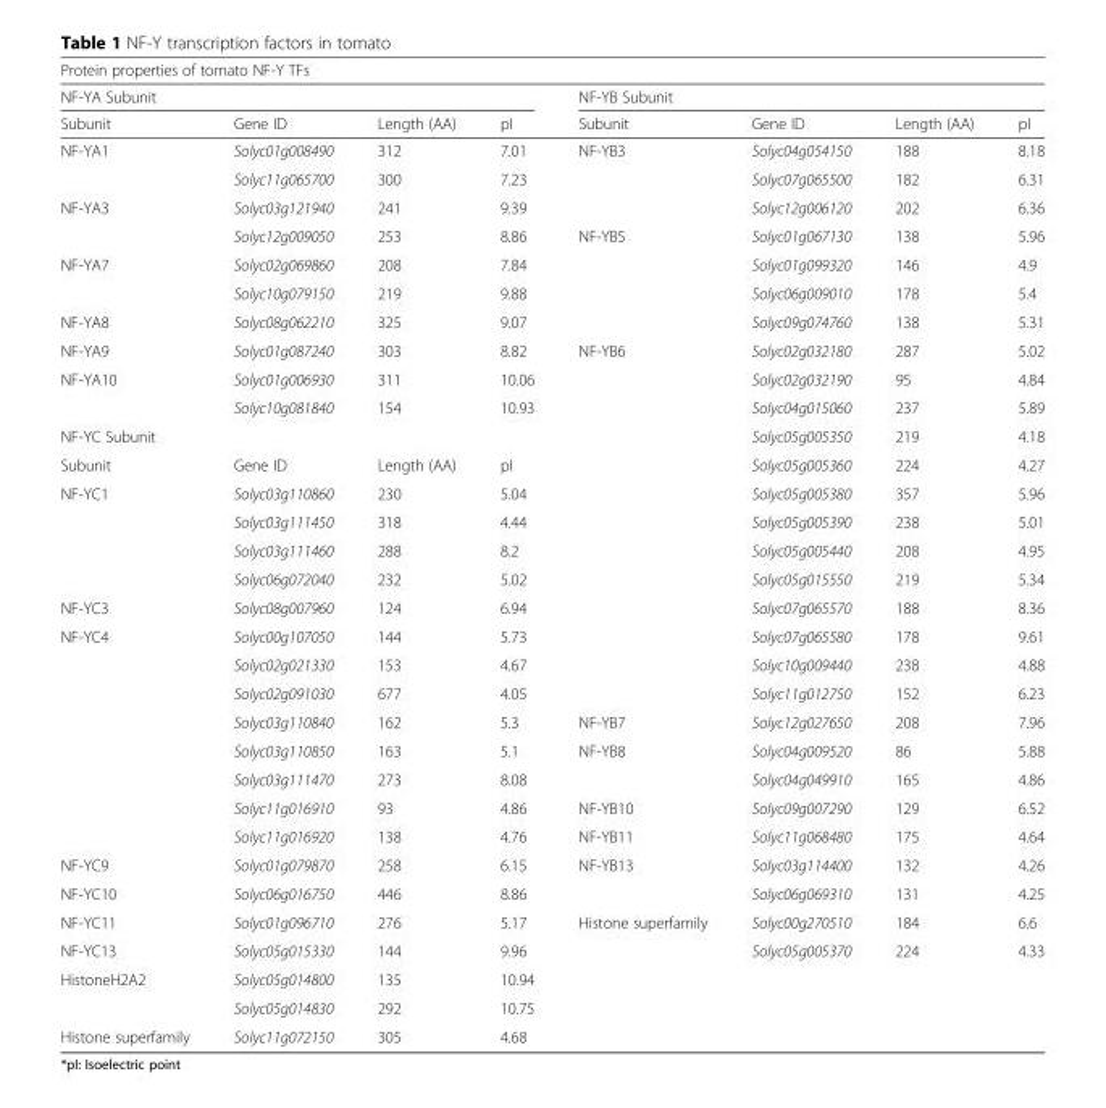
<table><thead><tr><td colspan="8">Protein properties of tomato NF-Y TFs</td></tr><tr><td colspan="4">NF-YA Subunit</td><td colspan="4">NF-YB Subunit</td></tr><tr><td>Subunit</td><td>Gene ID</td><td>Length (AA)</td><td>pI</td><td>Subunit</td><td>Gene ID</td><td>Length (AA)</td><td>pI</td></tr></thead><tbody><tr><td rowspan="2">NF-YA1</td><td>Solyc01g008490</td><td>312</td><td>7.01</td><td rowspan="3">NF-YB3</td><td>Solyc04g054150</td><td>188</td><td>8.18</td></tr><tr><td>Solyc11g065700</td><td>300</td><td>7.23</td><td>Solyc07g065500</td><td>182</td><td>6.31</td></tr><tr><td rowspan="2">NF-YA3</td><td>Solyc03g121940</td><td>241</td><td>9.39</td><td>Solyc12g006120</td><td>202</td><td>6.36</td></tr><tr><td>Solyc12g009050</td><td>253</td><td>8.86</td><td rowspan="4">NF-YB5</td><td>Solyc01g067130</td><td>138</td><td>5.96</td></tr><tr><td rowspan="2">NF-YA7</td><td>Solyc02g069860</td><td>208</td><td>7.84</td><td>Solyc01g099320</td><td>146</td><td>4.9</td></tr><tr><td>Solyc10g079150</td><td>219</td><td>9.88</td><td>Solyc06g009010</td><td>178</td><td>5.4</td></tr><tr><td>NF-YA8</td><td>Solyc08g062210</td><td>325</td><td>9.07</td><td>Solyc09g074760</td><td>138</td><td>5.31</td></tr><tr><td>NF-YA9</td><td>Solyc01g087240</td><td>303</td><td>8.82</td><td rowspan="13">NF-YB6</td><td>Solyc02g032180</td><td>287</td><td>5.02</td></tr><tr><td rowspan="2">NF-YA10</td><td>Solyc01g006930</td><td>311</td><td>10.06</td><td>Solyc02g032190</td><td>95</td><td>4.84</td></tr><tr><td>Solyc10g081840</td><td>154</td><td>10.93</td><td>Solyc04g015060</td><td>237</td><td>5.89</td></tr><tr><td colspan="4">NF-YC Subunit</td><td>Solyc05g005350</td><td>219</td><td>4.18</td></tr><tr><td>Subunit</td><td>Gene ID</td><td>Length (AA)</td><td>pI</td><td>Solyc05g005360</td><td>224</td><td>4.27</td></tr><tr><td rowspan="4">NF-YC1</td><td>Solyc03g110860</td><td>230</td><td>5.04</td><td>Solyc05g005380</td><td>357</td><td>5.96</td></tr><tr><td>Solyc03g111450</td><td>318</td><td>4.44</td><td>Solyc05g005390</td><td>238</td><td>5.01</td></tr><tr><td>Solyc03g111460</td><td>288</td><td>8.2</td><td>Solyc05g005440</td><td>208</td><td>4.95</td></tr><tr><td>Solyc06g072040</td><td>232</td><td>5.02</td><td>Solyc05g015550</td><td>219</td><td>5.34</td></tr><tr><td>NF-YC3</td><td>Solyc08g007960</td><td>124</td><td>6.94</td><td>Solyc07g065570</td><td>188</td><td>8.36</td></tr><tr><td rowspan="8">NF-YC4</td><td>Solyc00g107050</td><td>144</td><td>5.73</td><td>Solyc07g065580</td><td>178</td><td>9.61</td></tr><tr><td>Solyc02g021330</td><td>153</td><td>4.67</td><td>Solyc10g009440</td><td>238</td><td>4.88</td></tr><tr><td>Solyc02g091030</td><td>677</td><td>4.05</td><td>Solyc11g012750</td><td>152</td><td>6.23</td></tr><tr><td>Solyc03g110840</td><td>162</td><td>5.3</td><td>NF-YB7</td><td>Solyc12g027650</td><td>208</td><td>7.96</td></tr><tr><td>Solyc03g110850</td><td>163</td><td>5.1</td><td rowspan="2">NF-YB8</td><td>Solyc04g009520</td><td>86</td><td>5.88</td></tr><tr><td>Solyc03g111470</td><td>273</td><td>8.08</td><td>Solyc04g049910</td><td>165</td><td>4.86</td></tr><tr><td>Solyc11g016910</td><td>93</td><td>4.86</td><td>NF-YB10</td><td>Solyc09g007290</td><td>129</td><td>6.52</td></tr><tr><td>Solyc11g016920</td><td>138</td><td>4.76</td><td>NF-YB11</td><td>Solyc11g068480</td><td>175</td><td>4.64</td></tr><tr><td>NF-YC9</td><td>Solyc01g079870</td><td>258</td><td>6.15</td><td rowspan="2">NF-YB13</td><td>Solyc03g114400</td><td>132</td><td>4.26</td></tr><tr><td>NF-YC10</td><td>Solyc06g016750</td><td>446</td><td>8.86</td><td>Solyc06g069310</td><td>131</td><td>4.25</td></tr><tr><td>NF-YC11</td><td>Solyc01g096710</td><td>276</td><td>5.17</td><td rowspan="2">Histone superfamily</td><td>Solyc00g270510</td><td>184</td><td>6.6</td></tr><tr><td>NF-YC13</td><td>Solyc05g015330</td><td>144</td><td>9.96</td><td>Solyc05g005370</td><td>224</td><td>4.33</td></tr><tr><td rowspan="2">HistoneH2A2</td><td>Solyc05g014800</td><td>135</td><td>10.94</td><td></td><td></td><td></td><td></td></tr><tr><td>Solyc05g014830</td><td>292</td><td>10.75</td><td></td><td></td><td></td><td></td></tr><tr><td>Histone superfamily</td><td>Solyc11g072150</td><td>305</td><td>4.68</td><td></td><td></td><td></td><td></td></tr></tbody></table>